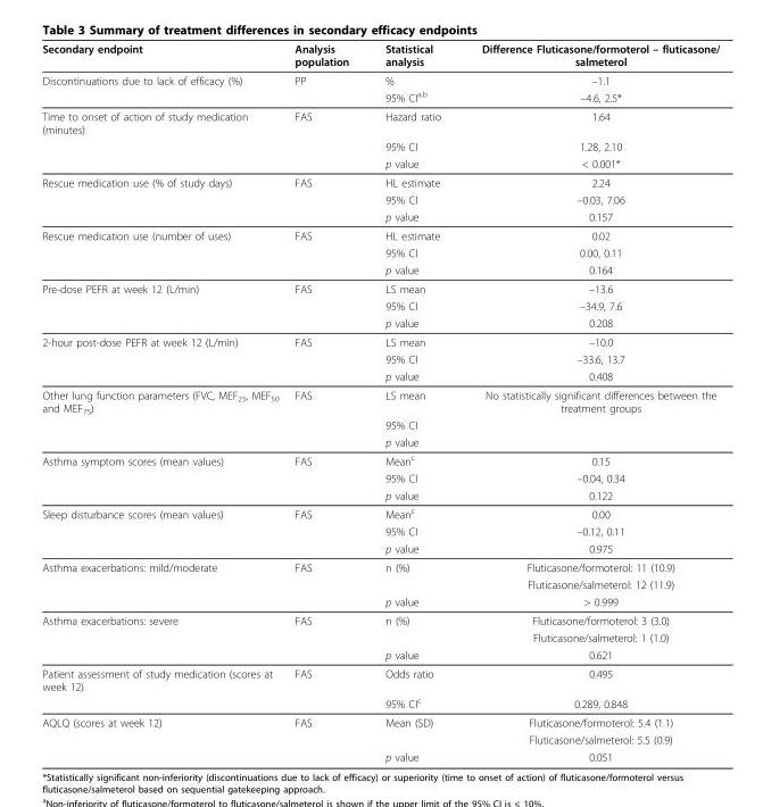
<table><thead><tr><td>Secondary endpoint</td><td>Analysis population</td><td>Statistical analysis</td><td>Difference Fluticasone/formoterol – fluticasone/ salmeterol</td></tr></thead><tbody><tr><td rowspan="2">Discontinuations due to lack of efficacy (%)</td><td>PP</td><td>%</td><td>–1.1</td></tr><tr><td></td><td>95% CI<sup>a,b</sup></td><td>–4.6, 2.5*</td></tr><tr><td rowspan="3">Time to onset of action of study medication (minutes)</td><td>FAS</td><td>Hazard ratio</td><td>1.64</td></tr><tr><td></td><td>95% CI</td><td>1.28, 2.10</td></tr><tr><td></td><td>p value</td><td>&lt; 0.001*</td></tr><tr><td rowspan="3">Rescue medication use (% of study days)</td><td>FAS</td><td>HL estimate</td><td>2.24</td></tr><tr><td></td><td>95% CI</td><td>–0.03, 7.06</td></tr><tr><td></td><td>p value</td><td>0.157</td></tr><tr><td rowspan="3">Rescue medication use (number of uses)</td><td>FAS</td><td>HL estimate</td><td>0.02</td></tr><tr><td></td><td>95% CI</td><td>0.00, 0.11</td></tr><tr><td></td><td>p value</td><td>0.164</td></tr><tr><td rowspan="3">Pre-dose PEFR at week 12 (L/min)</td><td>FAS</td><td>LS mean</td><td>–13.6</td></tr><tr><td></td><td>95% CI</td><td>–34.9, 7.6</td></tr><tr><td></td><td>p value</td><td>0.208</td></tr><tr><td rowspan="3">2-hour post-dose PEFR at week 12 (L/min)</td><td>FAS</td><td>LS mean</td><td>–10.0</td></tr><tr><td></td><td>95% CI</td><td>–33.6, 13.7</td></tr><tr><td></td><td>p value</td><td>0.408</td></tr><tr><td rowspan="3">Other lung function parameters (FVC, MEF<sub>25</sub>, MEF<sub>50</sub> and MEF<sub>75</sub>)</td><td>FAS</td><td>LS mean</td><td>No statistically significant differences between the treatment groups</td></tr><tr><td></td><td>95% CI</td><td></td></tr><tr><td></td><td>p value</td><td></td></tr><tr><td rowspan="3">Asthma symptom scores (mean values)</td><td>FAS</td><td>Mean<sup>c</sup></td><td>0.15</td></tr><tr><td></td><td>95% CI</td><td>–0.04, 0.34</td></tr><tr><td></td><td>p value</td><td>0.122</td></tr><tr><td rowspan="3">Sleep disturbance scores (mean values)</td><td>FAS</td><td>Mean<sup>c</sup></td><td>0.00</td></tr><tr><td></td><td>95% CI</td><td>–0.12, 0.11</td></tr><tr><td></td><td>p value</td><td>0.975</td></tr><tr><td rowspan="3">Asthma exacerbations: mild/moderate</td><td>FAS</td><td>n (%)</td><td>Fluticasone/formoterol: 11 (10.9)</td></tr><tr><td></td><td></td><td>Fluticasone/salmeterol: 12 (11.9)</td></tr><tr><td></td><td>p value</td><td>&gt; 0.999</td></tr><tr><td rowspan="3">Asthma exacerbations: severe</td><td>FAS</td><td>n (%)</td><td>Fluticasone/formoterol: 3 (3.0)</td></tr><tr><td></td><td></td><td>Fluticasone/salmeterol: 1 (1.0)</td></tr><tr><td></td><td>p value</td><td>0.621</td></tr><tr><td rowspan="2">Patient assessment of study medication (scores at week 12)</td><td>FAS</td><td>Odds ratio</td><td>0.495</td></tr><tr><td></td><td>95% CI<sup>c</sup></td><td>0.289, 0.848</td></tr><tr><td rowspan="3">AQLQ (scores at week 12)</td><td>FAS</td><td>Mean (SD)</td><td>Fluticasone/formoterol: 5.4 (1.1)</td></tr><tr><td></td><td></td><td>Fluticasone/salmeterol: 5.5 (0.9)</td></tr><tr><td></td><td>p value</td><td>0.051</td></tr></tbody></table>